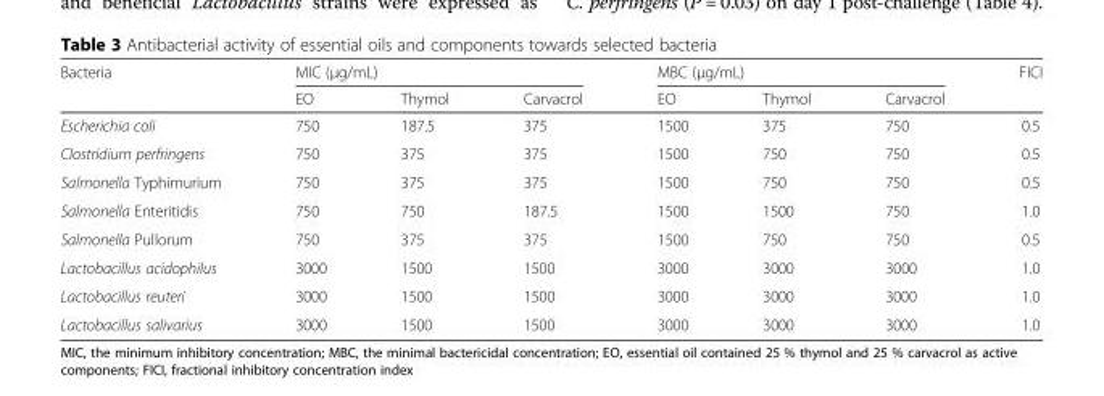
<table><thead><tr><td rowspan="2">Bacteria</td><td colspan="3">MIC (μg/mL)</td><td colspan="3">MBC (μg/mL)</td><td rowspan="2">FICI</td></tr><tr><td>EO</td><td>Thymol</td><td>Carvacrol</td><td>EO</td><td>Thymol</td><td>Carvacrol</td></tr></thead><tbody><tr><td>Escherichia coli</td><td>750</td><td>187.5</td><td>375</td><td>1500</td><td>375</td><td>750</td><td>0.5</td></tr><tr><td>Clostridium perfringens</td><td>750</td><td>375</td><td>375</td><td>1500</td><td>750</td><td>750</td><td>0.5</td></tr><tr><td>Salmonella Typhimurium</td><td>750</td><td>375</td><td>375</td><td>1500</td><td>750</td><td>750</td><td>0.5</td></tr><tr><td>Salmonella Enteritidis</td><td>750</td><td>750</td><td>187.5</td><td>1500</td><td>1500</td><td>750</td><td>1.0</td></tr><tr><td>Salmonella Pullorum</td><td>750</td><td>375</td><td>375</td><td>1500</td><td>750</td><td>750</td><td>0.5</td></tr><tr><td>Lactobacillus acidophilus</td><td>3000</td><td>1500</td><td>1500</td><td>3000</td><td>3000</td><td>3000</td><td>1.0</td></tr><tr><td>Lactobacillus reuteri</td><td>3000</td><td>1500</td><td>1500</td><td>3000</td><td>3000</td><td>3000</td><td>1.0</td></tr><tr><td>Lactobacillus salivarius</td><td>3000</td><td>1500</td><td>1500</td><td>3000</td><td>3000</td><td>3000</td><td>1.0</td></tr></tbody></table>